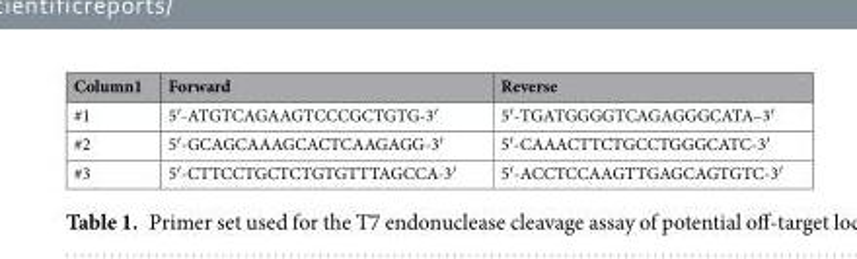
<table><thead><tr><td>Column1</td><td>Forward</td><td>Reverse</td></tr></thead><tbody><tr><td>#1</td><td>5′-ATGTCAGAAGTCCCGCTGTG-3′</td><td>5′-TGATGGGGTCAGAGGGCATA–3′</td></tr><tr><td>#2</td><td>5′-GCAGCAAAGCACTCAAGAGG-3′</td><td>5′-CAAACTTCTGCCTGGGCATC-3′</td></tr><tr><td>#3</td><td>5′-CTTCCTGCTCTGTGTTTAGCCA-3′</td><td>5′-ACCTCCAAGTTGAGCAGTGTC-3′</td></tr></tbody></table>